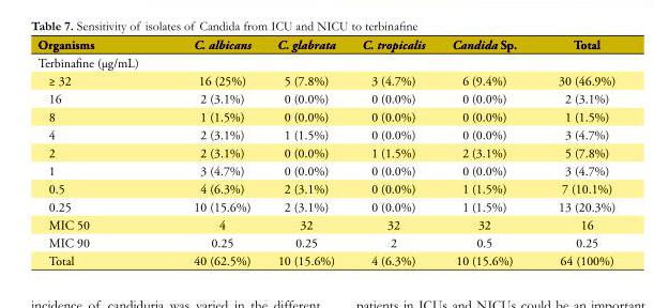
<table><tbody><tr><td>Organisms</td><td>C. albicans</td><td>C. glabrata</td><td>C. tropicalis</td><td>Candida Sp.</td><td>Total</td></tr><tr><td colspan="6">Terbinafine (µg/mL)</td></tr><tr><td>≥ 32</td><td>16 (25%)</td><td>5 (7.8%)</td><td>3 (4.7%)</td><td>6 (9.4%)</td><td>30 (46.9%)</td></tr><tr><td>16</td><td>2 (3.1%)</td><td>0 (0.0%)</td><td>0 (0.0%)</td><td>0 (0.0%)</td><td>2 (3.1%)</td></tr><tr><td>8</td><td>1 (1.5%)</td><td>0 (0.0%)</td><td>0 (0.0%)</td><td>0 (0.0%)</td><td>1 (1.5%)</td></tr><tr><td>4</td><td>2 (3.1%)</td><td>1 (1.5%)</td><td>0 (0.0%)</td><td>0 (0.0%)</td><td>3 (4.7%)</td></tr><tr><td>2</td><td>2 (3.1%)</td><td>0 (0.0%)</td><td>1 (1.5%)</td><td>2 (3.1%)</td><td>5 (7.8%)</td></tr><tr><td>1</td><td>3 (4.7%)</td><td>0 (0.0%)</td><td>0 (0.0%)</td><td>0 (0.0%)</td><td>3 (4.7%)</td></tr><tr><td>0.5</td><td>4 (6.3%)</td><td>2 (3.1%)</td><td>0 (0.0%)</td><td>1 (1.5%)</td><td>7 (10.1%)</td></tr><tr><td>0.25</td><td>10 (15.6%)</td><td>2 (3.1%)</td><td>0 (0.0%)</td><td>1 (1.5%)</td><td>13 (20.3%)</td></tr><tr><td>MIC 50</td><td>4</td><td>32</td><td>32</td><td>32</td><td>16</td></tr><tr><td>MIC 90</td><td>0.25</td><td>0.25</td><td>2</td><td>0.5</td><td>0.25</td></tr><tr><td>Total</td><td>40 (62.5%)</td><td>10 (15.6%)</td><td>4 (6.3%)</td><td>10 (15.6%)</td><td>64 (100%)</td></tr></tbody></table>